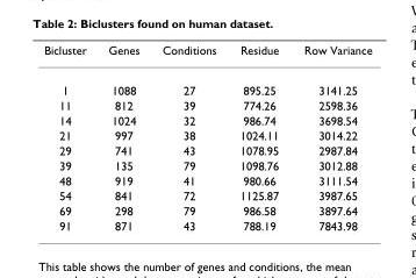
<table><thead><tr><td>Bicluster</td><td>Genes</td><td>Conditions</td><td>Residue</td><td>Row Variance</td></tr></thead><tbody><tr><td>1</td><td>1088</td><td>27</td><td>895.25</td><td>3141.25</td></tr><tr><td>11</td><td>812</td><td>39</td><td>774.26</td><td>2598.36</td></tr><tr><td>14</td><td>1024</td><td>32</td><td>986.74</td><td>3698.54</td></tr><tr><td>21</td><td>997</td><td>38</td><td>1024.11</td><td>3014.22</td></tr><tr><td>29</td><td>741</td><td>43</td><td>1078.95</td><td>2987.84</td></tr><tr><td>39</td><td>135</td><td>79</td><td>1098.76</td><td>3012.88</td></tr><tr><td>48</td><td>919</td><td>41</td><td>980.66</td><td>3111.54</td></tr><tr><td>54</td><td>841</td><td>72</td><td>1125.87</td><td>3987.65</td></tr><tr><td>69</td><td>298</td><td>79</td><td>986.58</td><td>3897.64</td></tr><tr><td>91</td><td>871</td><td>43</td><td>788.19</td><td>7843.98</td></tr></tbody></table>